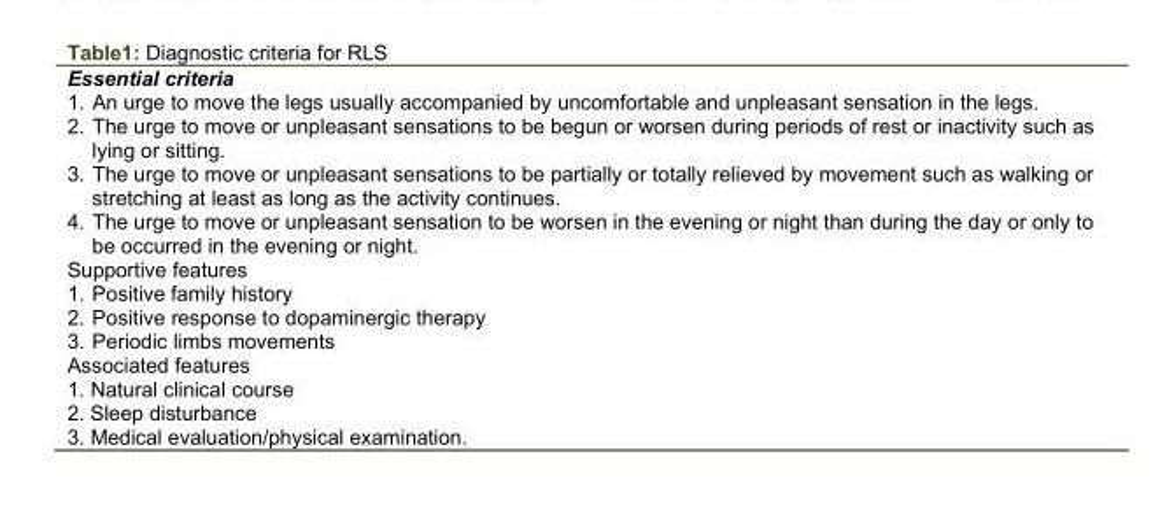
<table><thead><tr><td colspan="2">Essential criteria</td></tr><tr><td>1.</td><td>An urge to move the legs usually accompanied by uncomfortable and unpleasant sensation in the legs.</td></tr></thead><tbody><tr><td>2.</td><td>The urge to move or unpleasant sensations to be begun or worsen during periods of rest or inactivity such as lying or sitting.</td></tr><tr><td>3.</td><td>The urge to move or unpleasant sensations to be partially or totally relieved by movement such as walking or stretching at least as long as the activity continues.</td></tr><tr><td>4.</td><td>The urge to move or unpleasant sensation to be worsen in the evening or night than during the day or only to be occurred in the evening or night.</td></tr><tr><td colspan="2">Supportive features</td></tr><tr><td>1.</td><td>Positive family history</td></tr><tr><td>2.</td><td>Positive response to dopaminergic therapy</td></tr><tr><td>3.</td><td>Periodic limbs movements</td></tr><tr><td colspan="2">Associated features</td></tr><tr><td>1.</td><td>Natural clinical course</td></tr><tr><td>2.</td><td>Sleep disturbance</td></tr><tr><td>3.</td><td>Medical evaluation/physical examination.</td></tr></tbody></table>